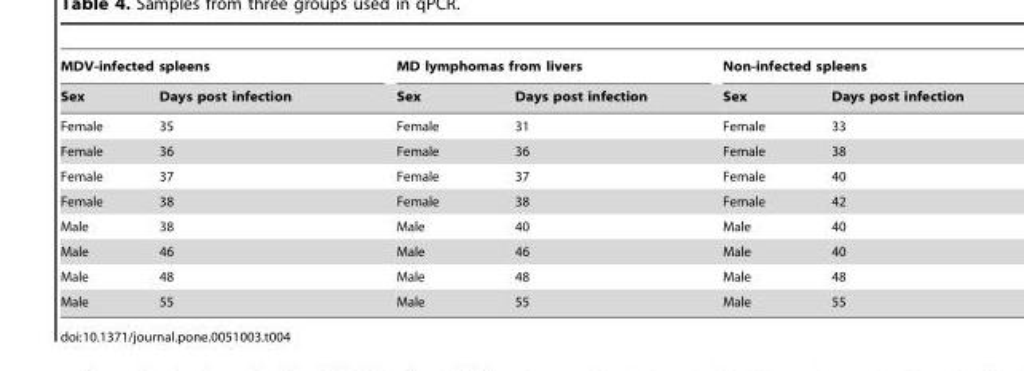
<table><thead><tr><td colspan="2">MDV-infected spleens</td><td colspan="2">MD lymphomas from livers</td><td colspan="2">Non-infected spleens</td></tr><tr><td>Sex</td><td>Days post infection</td><td>Sex</td><td>Days post infection</td><td>Sex</td><td>Days post infection</td></tr></thead><tbody><tr><td>Female</td><td>35</td><td>Female</td><td>31</td><td>Female</td><td>33</td></tr><tr><td>Female</td><td>36</td><td>Female</td><td>36</td><td>Female</td><td>38</td></tr><tr><td>Female</td><td>37</td><td>Female</td><td>37</td><td>Female</td><td>40</td></tr><tr><td>Female</td><td>38</td><td>Female</td><td>38</td><td>Female</td><td>42</td></tr><tr><td>Male</td><td>38</td><td>Male</td><td>40</td><td>Male</td><td>40</td></tr><tr><td>Male</td><td>46</td><td>Male</td><td>46</td><td>Male</td><td>40</td></tr><tr><td>Male</td><td>48</td><td>Male</td><td>48</td><td>Male</td><td>48</td></tr><tr><td>Male</td><td>55</td><td>Male</td><td>55</td><td>Male</td><td>55</td></tr></tbody></table>